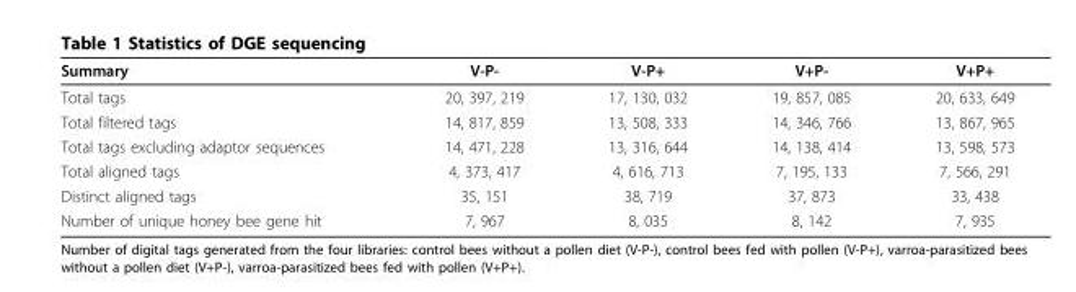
<table><thead><tr><td>Summary</td><td>V-P-</td><td>V-P+</td><td>V+P-</td><td>V+P+</td></tr></thead><tbody><tr><td>Total tags</td><td>20, 397, 219</td><td>17, 130, 032</td><td>19, 857, 085</td><td>20, 633, 649</td></tr><tr><td>Total filtered tags</td><td>14, 817, 859</td><td>13, 508, 333</td><td>14, 346, 766</td><td>13, 867, 965</td></tr><tr><td>Total tags excluding adaptor sequences</td><td>14, 471, 228</td><td>13, 316, 644</td><td>14, 138, 414</td><td>13, 598, 573</td></tr><tr><td>Total aligned tags</td><td>4, 373, 417</td><td>4, 616, 713</td><td>7, 195, 133</td><td>7, 566, 291</td></tr><tr><td>Distinct aligned tags</td><td>35, 151</td><td>38, 719</td><td>37, 873</td><td>33, 438</td></tr><tr><td>Number of unique honey bee gene hit</td><td>7, 967</td><td>8, 035</td><td>8, 142</td><td>7, 935</td></tr></tbody></table>